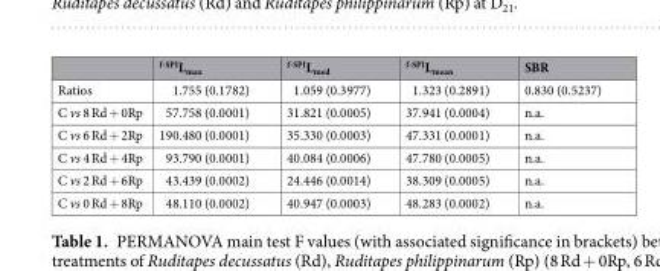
<table><thead><tr><td></td><td><sup>f-SPI</sup>L<sub>max</sub></td><td><sup>f-SPI</sup>L<sub>med</sub></td><td><sup>f-SPI</sup>L<sub>mean</sub></td><td>SBR</td></tr></thead><tbody><tr><td>Ratios</td><td>1.755 (0.1782)</td><td>1.059 (0.3977)</td><td>1.323 (0.2891)</td><td>0.830 (0.5237)</td></tr><tr><td>C vs 8 Rd + 0Rp</td><td>57.758 (0.0001)</td><td>31.821 (0.0005)</td><td>37.941 (0.0004)</td><td>n.a.</td></tr><tr><td>C vs 6 Rd + 2Rp</td><td>190.480 (0.0001)</td><td>35.330 (0.0003)</td><td>47.331 (0.0001)</td><td>n.a.</td></tr><tr><td>C vs 4 Rd + 4Rp</td><td>93.790 (0.0001)</td><td>40.084 (0.0006)</td><td>47.780 (0.0005)</td><td>n.a.</td></tr><tr><td>C vs 2 Rd + 6Rp</td><td>43.439 (0.0002)</td><td>24.446 (0.0014)</td><td>38.309 (0.0005)</td><td>n.a.</td></tr><tr><td>C vs 0 Rd + 8Rp</td><td>48.110 (0.0002)</td><td>40.947 (0.0003)</td><td>48.283 (0.0002)</td><td>n.a.</td></tr></tbody></table>